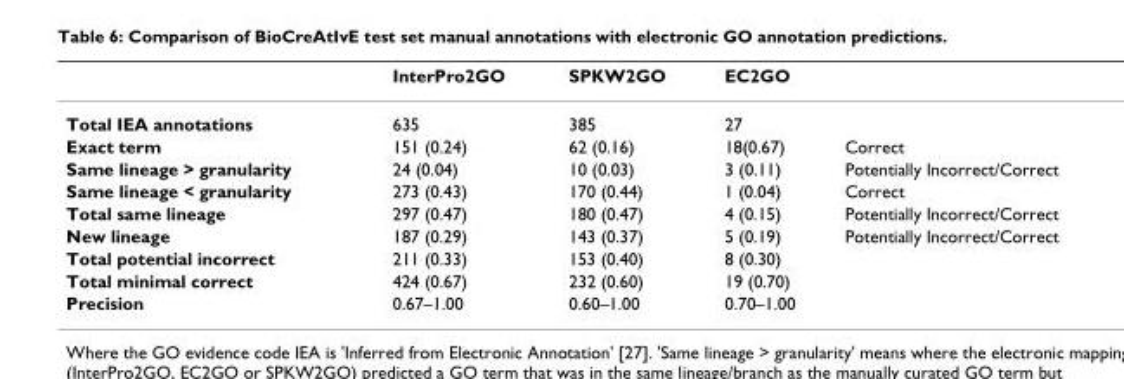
<table><thead><tr><td></td><td>InterPro2GO</td><td>SPKW2GO</td><td>EC2GO</td><td></td></tr></thead><tbody><tr><td>Total IEA annotations</td><td>635</td><td>385</td><td>27</td><td></td></tr><tr><td>Exact term</td><td>151 (0.24)</td><td>62 (0.16)</td><td>18(0.67)</td><td>Correct</td></tr><tr><td>Same lineage &gt; granularity</td><td>24 (0.04)</td><td>10 (0.03)</td><td>3 (0.11)</td><td>Potentially Incorrect/Correct</td></tr><tr><td>Same lineage &lt; granularity</td><td>273 (0.43)</td><td>170 (0.44)</td><td>1 (0.04)</td><td>Correct</td></tr><tr><td>Total same lineage</td><td>297 (0.47)</td><td>180 (0.47)</td><td>4 (0.15)</td><td>Potentially Incorrect/Correct</td></tr><tr><td>New lineage</td><td>187 (0.29)</td><td>143 (0.37)</td><td>5 (0.19)</td><td>Potentially Incorrect/Correct</td></tr><tr><td>Total potential incorrect</td><td>211 (0.33)</td><td>153 (0.40)</td><td>8 (0.30)</td><td></td></tr><tr><td>Total minimal correct</td><td>424 (0.67)</td><td>232 (0.60)</td><td>19 (0.70)</td><td></td></tr><tr><td>Precision</td><td>0.67–1.00</td><td>0.60–1.00</td><td>0.70–1.00</td><td></td></tr></tbody></table>